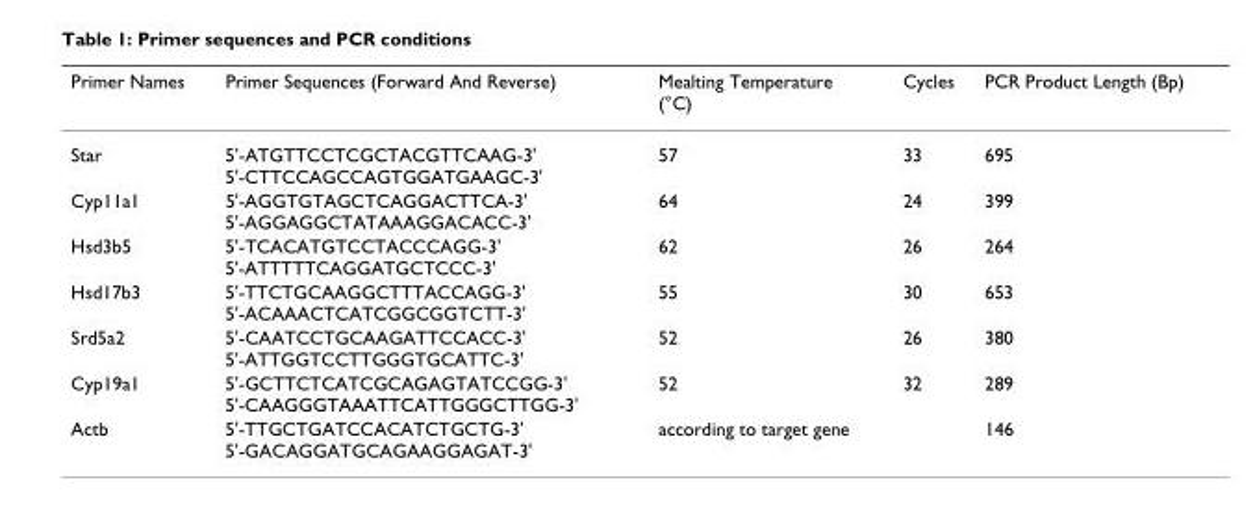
<table><thead><tr><td>Primer Names</td><td>Primer Sequences (Forward And Reverse)</td><td>Mealting Temperature (°C)</td><td>Cycles</td><td>PCR Product Length (Bp)</td></tr></thead><tbody><tr><td>Star</td><td>5&#x27;-ATGTTCCTCGCTACGTTCAAG-3&#x27; 5&#x27;-CTTCCAGCCAGTGGATGAAGC-3&#x27;</td><td>57</td><td>33</td><td>695</td></tr><tr><td>Cyp11a1</td><td>5&#x27;-AGGTGTAGCTCAGGACTTCA-3&#x27; 5&#x27;-AGGAGGCTATAAAGGACACC-3&#x27;</td><td>64</td><td>24</td><td>399</td></tr><tr><td>Hsd3b5</td><td>5&#x27;-TCACATGTCCTACCCAGG-3&#x27; 5&#x27;-ATTTTTCAGGATGCTCCC-3&#x27;</td><td>62</td><td>26</td><td>264</td></tr><tr><td>Hsd17b3</td><td>5&#x27;-TTCTGCAAGGCTTTACCAGG-3&#x27; 5&#x27;-ACAAACTCATCGGCGGTCTT-3&#x27;</td><td>55</td><td>30</td><td>653</td></tr><tr><td>Srd5a2</td><td>5&#x27;-CAATCCTGCAAGATTCCACC-3&#x27; 5&#x27;-ATTGGTCCTTGGGTGCATTC-3&#x27;</td><td>52</td><td>26</td><td>380</td></tr><tr><td>Cyp19a1</td><td>5&#x27;-GCTTCTCATCGCAGAGTATCCGG-3&#x27; 5&#x27;-CAAGGGTAAATTCATTGGGCTTGG-3&#x27;</td><td>52</td><td>32</td><td>289</td></tr><tr><td>Actb</td><td>5&#x27;-TTGCTGATCCACATCTGCTG-3&#x27; 5&#x27;-GACAGGATGCAGAAGGAGAT-3&#x27;</td><td>according to target gene</td><td></td><td>146</td></tr></tbody></table>